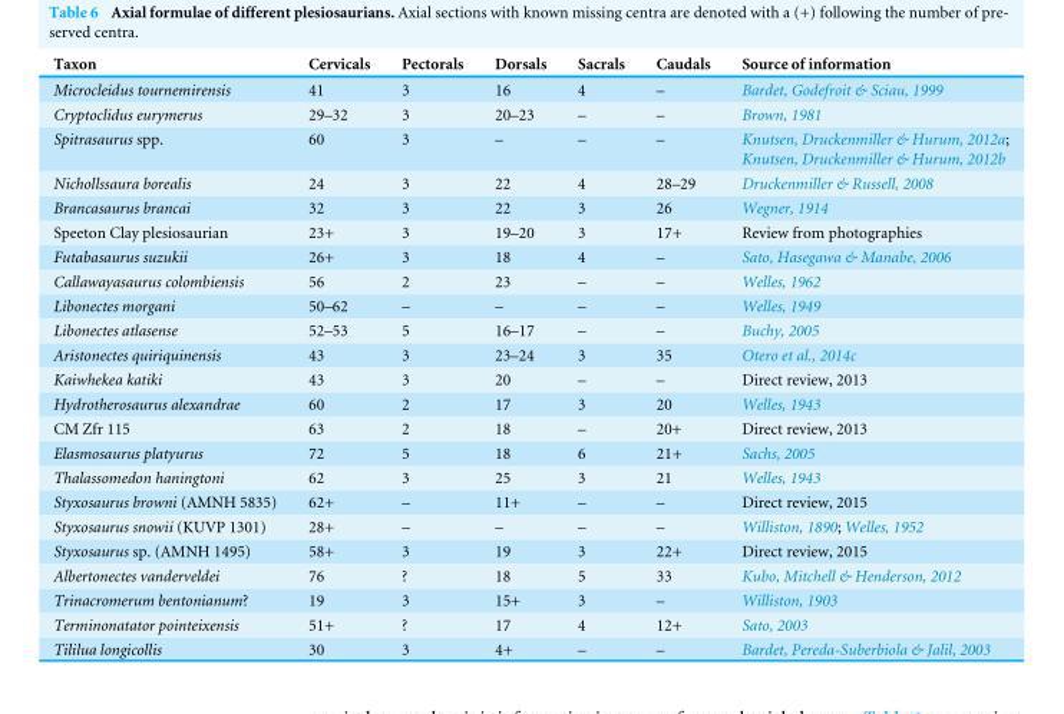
<table><thead><tr><td>Taxon</td><td>Cervicals</td><td>Pectorals</td><td>Dorsals</td><td>Sacrals</td><td>Caudals</td><td>Source of information</td></tr></thead><tbody><tr><td>Microcleidus tournemirensis</td><td>41</td><td>3</td><td>16</td><td>4</td><td>–</td><td>Bardet, Godefroit &amp; Sciau, 1999</td></tr><tr><td>Cryptoclidus eurymerus</td><td>29–32</td><td>3</td><td>20–23</td><td>–</td><td>–</td><td>Brown, 1981</td></tr><tr><td>Spitrasaurus spp.</td><td>60</td><td>3</td><td>–</td><td>–</td><td>–</td><td>Knutsen, Druckenmiller &amp; Hurum, 2012a; Knutsen, Druckenmiller &amp; Hurum, 2012b</td></tr><tr><td>Nichollssaura borealis</td><td>24</td><td>3</td><td>22</td><td>4</td><td>28–29</td><td>Druckenmiller &amp; Russell, 2008</td></tr><tr><td>Brancasaurus brancai</td><td>32</td><td>3</td><td>22</td><td>3</td><td>26</td><td>Wegner, 1914</td></tr><tr><td>Speeton Clay plesiosaurian</td><td>23+</td><td>3</td><td>19–20</td><td>3</td><td>17+</td><td>Review from photographies</td></tr><tr><td>Futabasaurus suzukii</td><td>26+</td><td>3</td><td>18</td><td>4</td><td>–</td><td>Sato, Hasegawa &amp; Manabe, 2006</td></tr><tr><td>Callawayasaurus colombiensis</td><td>56</td><td>2</td><td>23</td><td>–</td><td>–</td><td>Welles, 1962</td></tr><tr><td>Libonectes morgani</td><td>50–62</td><td>–</td><td>–</td><td>–</td><td>–</td><td>Welles, 1949</td></tr><tr><td>Libonectes atlasense</td><td>52–53</td><td>5</td><td>16–17</td><td>–</td><td>–</td><td>Buchy, 2005</td></tr><tr><td>Aristonectes quiriquinensis</td><td>43</td><td>3</td><td>23–24</td><td>3</td><td>35</td><td>Otero et al., 2014c</td></tr><tr><td>Kaiwhekea katiki</td><td>43</td><td>3</td><td>20</td><td>–</td><td>–</td><td>Direct review, 2013</td></tr><tr><td>Hydrotherosaurus alexandrae</td><td>60</td><td>2</td><td>17</td><td>3</td><td>20</td><td>Welles, 1943</td></tr><tr><td>CM Zfr 115</td><td>63</td><td>2</td><td>18</td><td>–</td><td>20+</td><td>Direct review, 2013</td></tr><tr><td>Elasmosaurus platyurus</td><td>72</td><td>5</td><td>18</td><td>6</td><td>21+</td><td>Sachs, 2005</td></tr><tr><td>Thalassomedon haningtoni</td><td>62</td><td>3</td><td>25</td><td>3</td><td>21</td><td>Welles, 1943</td></tr><tr><td>Styxosaurus browni (AMNH 5835)</td><td>62+</td><td>–</td><td>11+</td><td>–</td><td>–</td><td>Direct review, 2015</td></tr><tr><td>Styxosaurus snowii (KUVP 1301)</td><td>28+</td><td>–</td><td>–</td><td>–</td><td>–</td><td>Williston, 1890; Welles, 1952</td></tr><tr><td>Styxosaurus sp. (AMNH 1495)</td><td>58+</td><td>3</td><td>19</td><td>3</td><td>22+</td><td>Direct review, 2015</td></tr><tr><td>Albertonectes vanderveldei</td><td>76</td><td>?</td><td>18</td><td>5</td><td>33</td><td>Kubo, Mitchell &amp; Henderson, 2012</td></tr><tr><td>Trinacromerum bentonianum?</td><td>19</td><td>3</td><td>15+</td><td>3</td><td>–</td><td>Williston, 1903</td></tr><tr><td>Terminonatator pointeixensis</td><td>51+</td><td>?</td><td>17</td><td>4</td><td>12+</td><td>Sato, 2003</td></tr><tr><td>Tililua longicollis</td><td>30</td><td>3</td><td>4+</td><td>–</td><td>–</td><td>Bardet, Pereda-Suberbiola &amp; Jalil, 2003</td></tr></tbody></table>